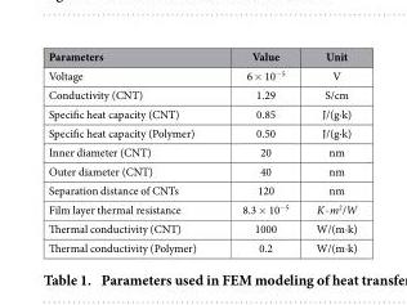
<table><thead><tr><td>Parameters</td><td>Value</td><td>Unit</td></tr></thead><tbody><tr><td>Voltage</td><td>6 × 10<sup>−5</sup></td><td>V</td></tr><tr><td>Conductivity (CNT)</td><td>1.29</td><td>S/cm</td></tr><tr><td>Specific heat capacity (CNT)</td><td>0.85</td><td>J/(g·k)</td></tr><tr><td>Specific heat capacity (Polymer)</td><td>0.50</td><td>J/(g·k)</td></tr><tr><td>Inner diameter (CNT)</td><td>20</td><td>nm</td></tr><tr><td>Outer diameter (CNT)</td><td>40</td><td>nm</td></tr><tr><td>Separation distance of CNTs</td><td>120</td><td>nm</td></tr><tr><td>Film layer thermal resistance</td><td>8.3 × 10<sup>−5</sup></td><td>K · m<sup>2</sup>/W</td></tr><tr><td>Thermal conductivity (CNT)</td><td>1000</td><td>W/(m·k)</td></tr><tr><td>Thermal conductivity (Polymer)</td><td>0.2</td><td>W/(m·k)</td></tr></tbody></table>